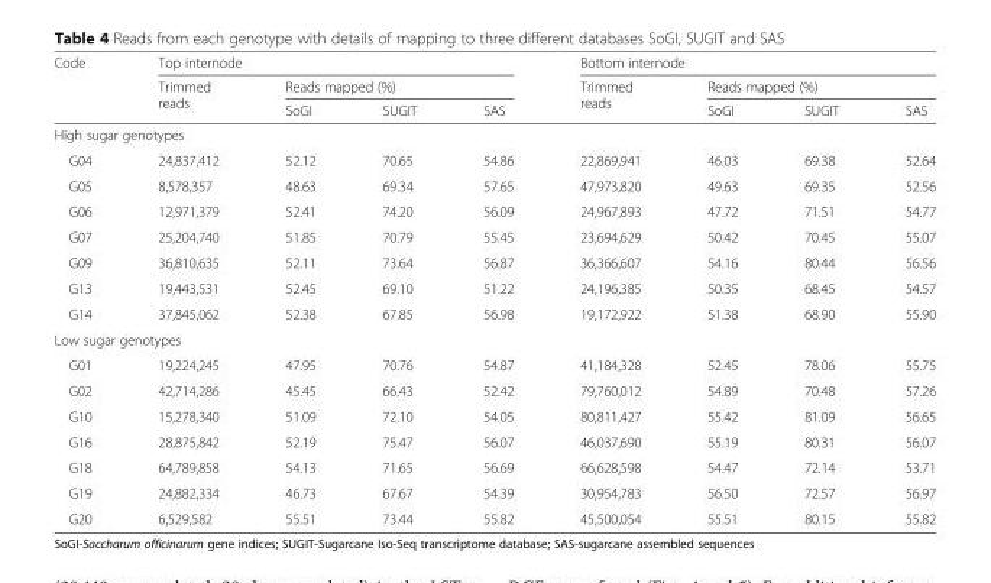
<table><thead><tr><td rowspan="3">Code</td><td colspan="4">Top internode</td><td colspan="4">Bottom internode</td></tr><tr><td rowspan="2">Trimmed reads</td><td colspan="3">Reads mapped (%)</td><td rowspan="2">Trimmed reads</td><td colspan="3">Reads mapped (%)</td></tr><tr><td>SoGI</td><td>SUGIT</td><td>SAS</td><td>SoGI</td><td>SUGIT</td><td>SAS</td></tr></thead><tbody><tr><td colspan="9">High sugar genotypes</td></tr><tr><td>G04</td><td>24,837,412</td><td>52.12</td><td>70.65</td><td>54.86</td><td>22,869,941</td><td>46.03</td><td>69.38</td><td>52.64</td></tr><tr><td>G05</td><td>8,578,357</td><td>48.63</td><td>69.34</td><td>57.65</td><td>47,973,820</td><td>49.63</td><td>69.35</td><td>52.56</td></tr><tr><td>G06</td><td>12,971,379</td><td>52.41</td><td>74.20</td><td>56.09</td><td>24,967,893</td><td>47.72</td><td>71.51</td><td>54.77</td></tr><tr><td>G07</td><td>25,204,740</td><td>51.85</td><td>70.79</td><td>55.45</td><td>23,694,629</td><td>50.42</td><td>70.45</td><td>55.07</td></tr><tr><td>G09</td><td>36,810,635</td><td>52.11</td><td>73.64</td><td>56.87</td><td>36,366,607</td><td>54.16</td><td>80.44</td><td>56.56</td></tr><tr><td>G13</td><td>19,443,531</td><td>52.45</td><td>69.10</td><td>51.22</td><td>24,196,385</td><td>50.35</td><td>68.45</td><td>54.57</td></tr><tr><td>G14</td><td>37,845,062</td><td>52.38</td><td>67.85</td><td>56.98</td><td>19,172,922</td><td>51.38</td><td>68.90</td><td>55.90</td></tr><tr><td colspan="9">Low sugar genotypes</td></tr><tr><td>G01</td><td>19,224,245</td><td>47.95</td><td>70.76</td><td>54.87</td><td>41,184,328</td><td>52.45</td><td>78.06</td><td>55.75</td></tr><tr><td>G02</td><td>42,714,286</td><td>45.45</td><td>66.43</td><td>52.42</td><td>79,760,012</td><td>54.89</td><td>70.48</td><td>57.26</td></tr><tr><td>G10</td><td>15,278,340</td><td>51.09</td><td>72.10</td><td>54.05</td><td>80,811,427</td><td>55.42</td><td>81.09</td><td>56.65</td></tr><tr><td>G16</td><td>28,875,842</td><td>52.19</td><td>75.47</td><td>56.07</td><td>46,037,690</td><td>55.19</td><td>80.31</td><td>56.07</td></tr><tr><td>G18</td><td>64,789,858</td><td>54.13</td><td>71.65</td><td>56.69</td><td>66,628,598</td><td>54.47</td><td>72.14</td><td>53.71</td></tr><tr><td>G19</td><td>24,882,334</td><td>46.73</td><td>67.67</td><td>54.39</td><td>30,954,783</td><td>56.50</td><td>72.57</td><td>56.97</td></tr><tr><td>G20</td><td>6,529,582</td><td>55.51</td><td>73.44</td><td>55.82</td><td>45,500,054</td><td>55.51</td><td>80.15</td><td>55.82</td></tr></tbody></table>